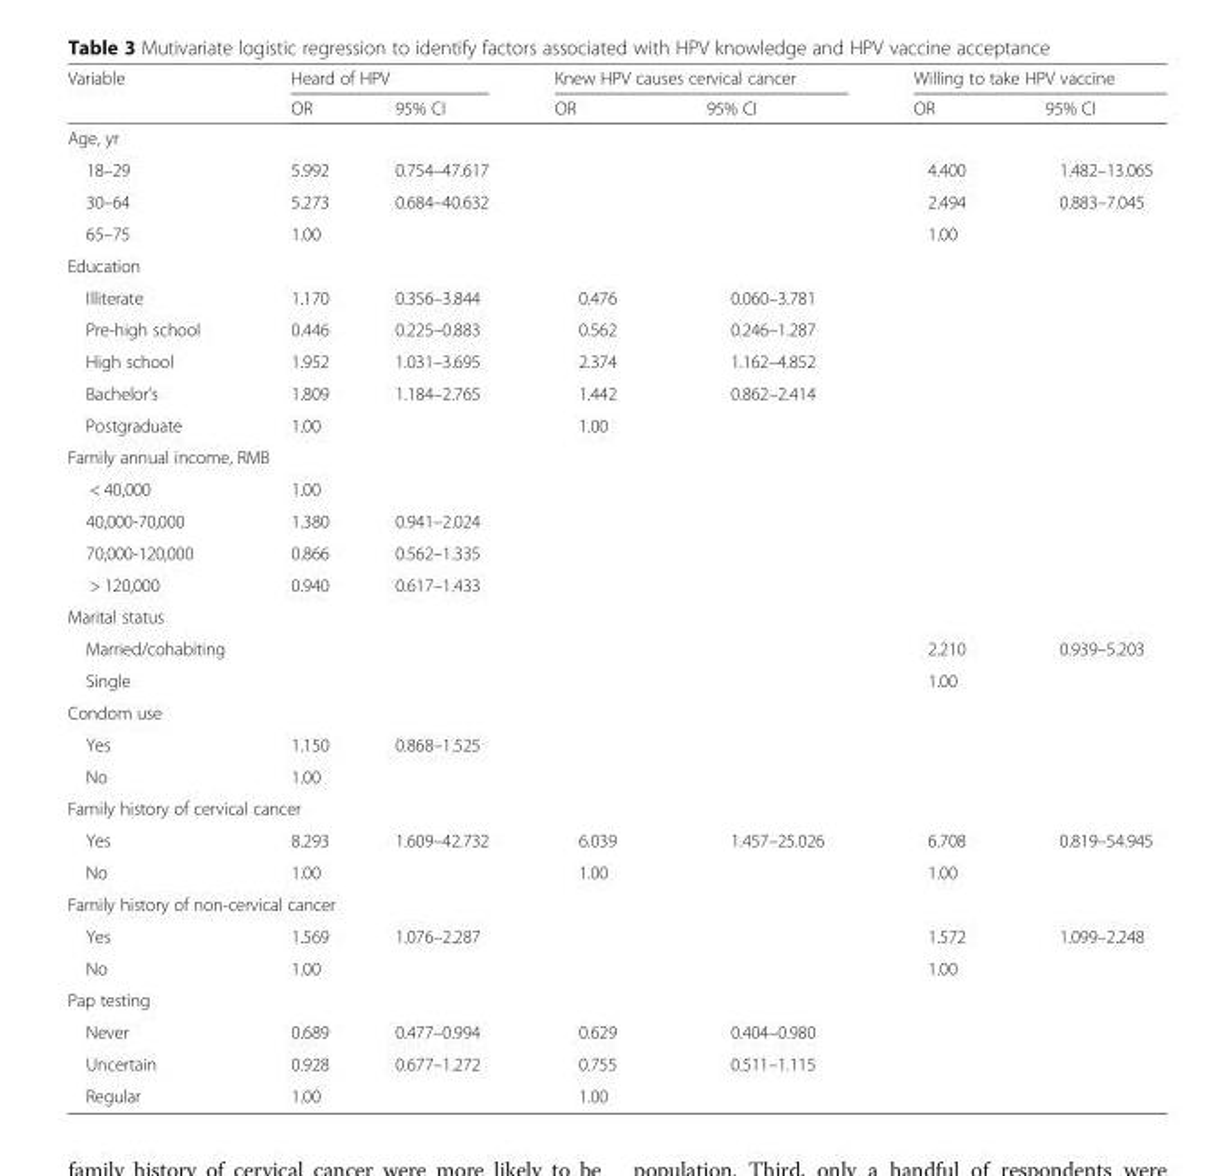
<table><thead><tr><td rowspan="2">Variable</td><td colspan="2">Heard of HPV</td><td colspan="2">Knew HPV causes cervical cancer</td><td colspan="2">Willing to take HPV vaccine</td></tr><tr><td>OR</td><td>95% CI</td><td>OR</td><td>95% CI</td><td>OR</td><td>95% CI</td></tr></thead><tbody><tr><td colspan="7">Age, yr</td></tr><tr><td>18–29</td><td>5.992</td><td>0.754–47.617</td><td></td><td></td><td>4.400</td><td>1.482–13.065</td></tr><tr><td>30–64</td><td>5.273</td><td>0.684–40.632</td><td></td><td></td><td>2.494</td><td>0.883–7.045</td></tr><tr><td>65–75</td><td>1.00</td><td></td><td></td><td></td><td>1.00</td><td></td></tr><tr><td colspan="7">Education</td></tr><tr><td>Illiterate</td><td>1.170</td><td>0.356–3.844</td><td>0.476</td><td>0.060–3.781</td><td></td><td></td></tr><tr><td>Pre-high school</td><td>0.446</td><td>0.225–0.883</td><td>0.562</td><td>0.246–1.287</td><td></td><td></td></tr><tr><td>High school</td><td>1.952</td><td>1.031–3.695</td><td>2.374</td><td>1.162–4.852</td><td></td><td></td></tr><tr><td>Bachelor’s</td><td>1.809</td><td>1.184–2.765</td><td>1.442</td><td>0.862–2.414</td><td></td><td></td></tr><tr><td>Postgraduate</td><td>1.00</td><td></td><td>1.00</td><td></td><td></td><td></td></tr><tr><td colspan="7">Family annual income, RMB</td></tr><tr><td>&lt; 40,000</td><td>1.00</td><td></td><td></td><td></td><td></td><td></td></tr><tr><td>40,000-70,000</td><td>1.380</td><td>0.941–2.024</td><td></td><td></td><td></td><td></td></tr><tr><td>70,000-120,000</td><td>0.866</td><td>0.562–1.335</td><td></td><td></td><td></td><td></td></tr><tr><td>&gt; 120,000</td><td>0.940</td><td>0.617–1.433</td><td></td><td></td><td></td><td></td></tr><tr><td colspan="7">Marital status</td></tr><tr><td>Married/cohabiting</td><td></td><td></td><td></td><td></td><td>2.210</td><td>0.939–5.203</td></tr><tr><td>Single</td><td></td><td></td><td></td><td></td><td>1.00</td><td></td></tr><tr><td colspan="7">Condom use</td></tr><tr><td>Yes</td><td>1.150</td><td>0.868–1.525</td><td></td><td></td><td></td><td></td></tr><tr><td>No</td><td>1.00</td><td></td><td></td><td></td><td></td><td></td></tr><tr><td colspan="7">Family history of cervical cancer</td></tr><tr><td>Yes</td><td>8.293</td><td>1.609–42.732</td><td>6.039</td><td>1.457–25.026</td><td>6.708</td><td>0.819–54.945</td></tr><tr><td>No</td><td>1.00</td><td></td><td>1.00</td><td></td><td>1.00</td><td></td></tr><tr><td colspan="7">Family history of non-cervical cancer</td></tr><tr><td>Yes</td><td>1.569</td><td>1.076–2.287</td><td></td><td></td><td>1.572</td><td>1.099–2.248</td></tr><tr><td>No</td><td>1.00</td><td></td><td></td><td></td><td>1.00</td><td></td></tr><tr><td colspan="7">Pap testing</td></tr><tr><td>Never</td><td>0.689</td><td>0.477–0.994</td><td>0.629</td><td>0.404–0.980</td><td></td><td></td></tr><tr><td>Uncertain</td><td>0.928</td><td>0.677–1.272</td><td>0.755</td><td>0.511–1.115</td><td></td><td></td></tr><tr><td>Regular</td><td>1.00</td><td></td><td>1.00</td><td></td><td></td><td></td></tr></tbody></table>